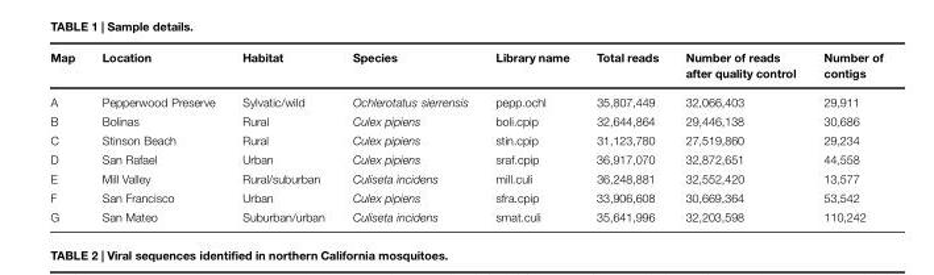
<table><thead><tr><td>Map</td><td>Location</td><td>Habitat</td><td>Species</td><td>Library name</td><td>Total reads</td><td>Number of reads after quality control</td><td>Number of contigs</td></tr></thead><tbody><tr><td>A</td><td>Pepperwood Preserve</td><td>Sylvatic/wild</td><td>Ochlerotatus sierrensis</td><td>pepp.ochl</td><td>35,807,449</td><td>32,066,403</td><td>29,911</td></tr><tr><td>B</td><td>Bolinas</td><td>Rural</td><td>Culex pipiens</td><td>boli.cpip</td><td>32,644,864</td><td>29,446,138</td><td>30,686</td></tr><tr><td>C</td><td>Stinson Beach</td><td>Rural</td><td>Culex pipiens</td><td>stin.cpip</td><td>31,123,780</td><td>27,519,860</td><td>29,234</td></tr><tr><td>D</td><td>San Rafael</td><td>Urban</td><td>Culex pipiens</td><td>sraf.cpip</td><td>36,917,070</td><td>32,872,651</td><td>44,558</td></tr><tr><td>E</td><td>Mill Valley</td><td>Rural/suburban</td><td>Culiseta incidens</td><td>mill.culi</td><td>36,248,881</td><td>32,552,420</td><td>13,577</td></tr><tr><td>F</td><td>San Francisco</td><td>Urban</td><td>Culex pipiens</td><td>sfra.cpip</td><td>33,906,608</td><td>30,669,364</td><td>53,542</td></tr><tr><td>G</td><td>San Mateo</td><td>Suburban/urban</td><td>Culiseta incidens</td><td>smat.culi</td><td>35,641,996</td><td>32,203,598</td><td>110,242</td></tr></tbody></table>